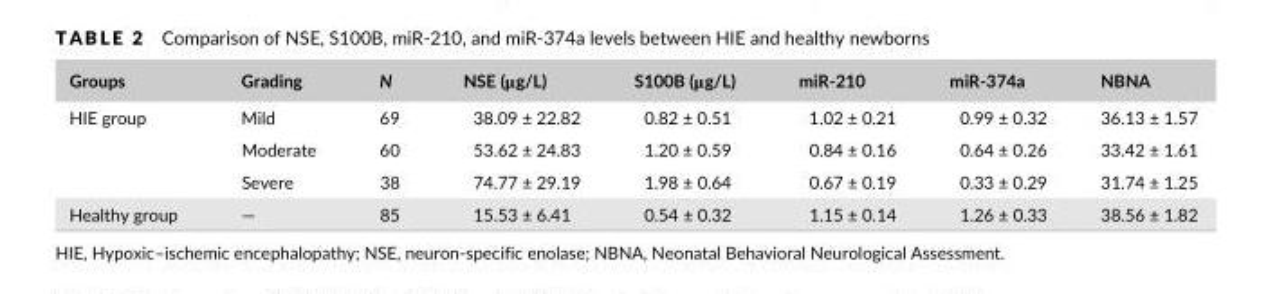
<table><thead><tr><td>Groups</td><td>Grading</td><td>N</td><td>NSE (μg/L)</td><td>S100B (μg/L)</td><td>miR- 210</td><td>miR- 374a</td><td>NBNA</td></tr></thead><tbody><tr><td rowspan="3">HIE group</td><td>Mild</td><td>69</td><td>38.09 ± 22.82</td><td>0.82 ± 0.51</td><td>1.02 ± 0.21</td><td>0.99 ± 0.32</td><td>36.13 ± 1.57</td></tr><tr><td>Moderate</td><td>60</td><td>53.62 ± 24.83</td><td>1.20 ± 0.59</td><td>0.84 ± 0.16</td><td>0.64 ± 0.26</td><td>33.42 ± 1.61</td></tr><tr><td>Severe</td><td>38</td><td>74.77 ± 29.19</td><td>1.98 ± 0.64</td><td>0.67 ± 0.19</td><td>0.33 ± 0.29</td><td>31.74 ± 1.25</td></tr><tr><td>Healthy group</td><td>—</td><td>85</td><td>15.53 ± 6.41</td><td>0.54 ± 0.32</td><td>1.15 ± 0.14</td><td>1.26 ± 0.33</td><td>38.56 ± 1.82</td></tr></tbody></table>